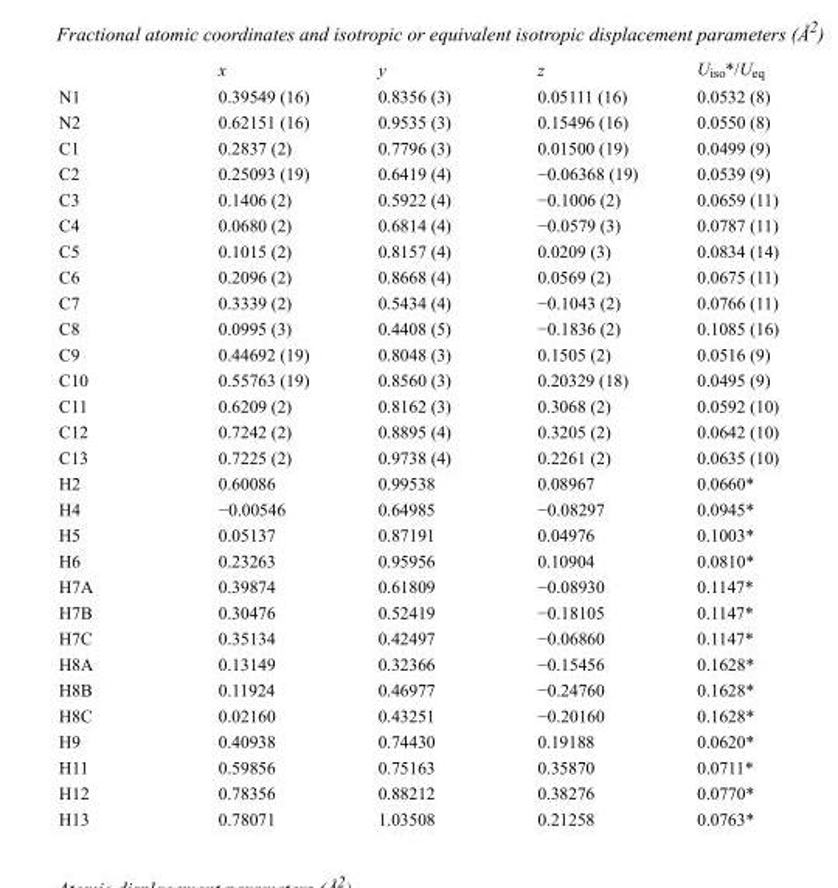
<table><thead><tr><td></td><td>x</td><td>y</td><td>z</td><td>U<sub>iso</sub>*/U<sub>eq</sub></td></tr></thead><tbody><tr><td>N1</td><td>0.39549 (16)</td><td>0.8356 (3)</td><td>0.05111 (16)</td><td>0.0532 (8)</td></tr><tr><td>N2</td><td>0.62151 (16)</td><td>0.9535 (3)</td><td>0.15496 (16)</td><td>0.0550 (8)</td></tr><tr><td>C1</td><td>0.2837 (2)</td><td>0.7796 (3)</td><td>0.01500 (19)</td><td>0.0499 (9)</td></tr><tr><td>C2</td><td>0.25093 (19)</td><td>0.6419 (4)</td><td>−0.06368 (19)</td><td>0.0539 (9)</td></tr><tr><td>C3</td><td>0.1406 (2)</td><td>0.5922 (4)</td><td>−0.1006 (2)</td><td>0.0659 (11)</td></tr><tr><td>C4</td><td>0.0680 (2)</td><td>0.6814 (4)</td><td>−0.0579 (3)</td><td>0.0787 (11)</td></tr><tr><td>C5</td><td>0.1015 (2)</td><td>0.8157 (4)</td><td>0.0209 (3)</td><td>0.0834 (14)</td></tr><tr><td>C6</td><td>0.2096 (2)</td><td>0.8668 (4)</td><td>0.0569 (2)</td><td>0.0675 (11)</td></tr><tr><td>C7</td><td>0.3339 (2)</td><td>0.5434 (4)</td><td>−0.1043 (2)</td><td>0.0766 (11)</td></tr><tr><td>C8</td><td>0.0995 (3)</td><td>0.4408 (5)</td><td>−0.1836 (2)</td><td>0.1085 (16)</td></tr><tr><td>C9</td><td>0.44692 (19)</td><td>0.8048 (3)</td><td>0.1505 (2)</td><td>0.0516 (9)</td></tr><tr><td>C10</td><td>0.55763 (19)</td><td>0.8560 (3)</td><td>0.20329 (18)</td><td>0.0495 (9)</td></tr><tr><td>C11</td><td>0.6209 (2)</td><td>0.8162 (3)</td><td>0.3068 (2)</td><td>0.0592 (10)</td></tr><tr><td>C12</td><td>0.7242 (2)</td><td>0.8895 (4)</td><td>0.3205 (2)</td><td>0.0642 (10)</td></tr><tr><td>C13</td><td>0.7225 (2)</td><td>0.9738 (4)</td><td>0.2261 (2)</td><td>0.0635 (10)</td></tr><tr><td>H2</td><td>0.60086</td><td>0.99538</td><td>0.08967</td><td>0.0660*</td></tr><tr><td>H4</td><td>−0.00546</td><td>0.64985</td><td>−0.08297</td><td>0.0945*</td></tr><tr><td>H5</td><td>0.05137</td><td>0.87191</td><td>0.04976</td><td>0.1003*</td></tr><tr><td>H6</td><td>0.23263</td><td>0.95956</td><td>0.10904</td><td>0.0810*</td></tr><tr><td>H7A</td><td>0.39874</td><td>0.61809</td><td>−0.08930</td><td>0.1147*</td></tr><tr><td>H7B</td><td>0.30476</td><td>0.52419</td><td>−0.18105</td><td>0.1147*</td></tr><tr><td>H7C</td><td>0.35134</td><td>0.42497</td><td>−0.06860</td><td>0.1147*</td></tr><tr><td>H8A</td><td>0.13149</td><td>0.32366</td><td>−0.15456</td><td>0.1628*</td></tr><tr><td>H8B</td><td>0.11924</td><td>0.46977</td><td>−0.24760</td><td>0.1628*</td></tr><tr><td>H8C</td><td>0.02160</td><td>0.43251</td><td>−0.20160</td><td>0.1628*</td></tr><tr><td>H9</td><td>0.40938</td><td>0.74430</td><td>0.19188</td><td>0.0620*</td></tr><tr><td>H11</td><td>0.59856</td><td>0.75163</td><td>0.35870</td><td>0.0711*</td></tr><tr><td>H12</td><td>0.78356</td><td>0.88212</td><td>0.38276</td><td>0.0770*</td></tr><tr><td>H13</td><td>0.78071</td><td>1.03508</td><td>0.21258</td><td>0.0763*</td></tr></tbody></table>